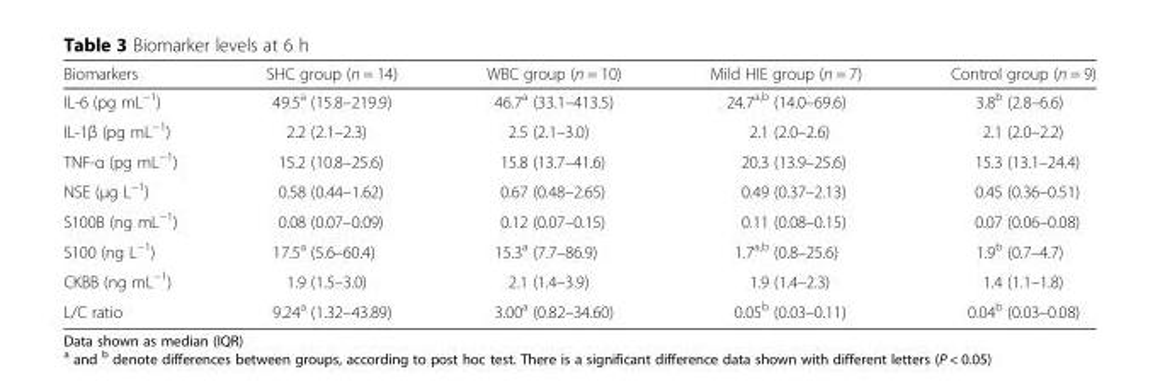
<table><thead><tr><td>Biomarkers</td><td>SHC group (n = 14)</td><td>WBC group (n = 10)</td><td>Mild HIE group (n = 7)</td><td>Control group (n = 9)</td></tr></thead><tbody><tr><td>IL-6 (pg mL<sup>−1</sup>)</td><td>49.5<sup>a</sup> (15.8–219.9)</td><td>46.7<sup>a</sup> (33.1–413.5)</td><td>24.7<sup>a,b</sup> (14.0–69.6)</td><td>3.8<sup>b</sup> (2.8–6.6)</td></tr><tr><td>IL-1β (pg mL<sup>−1</sup>)</td><td>2.2 (2.1–2.3)</td><td>2.5 (2.1–3.0)</td><td>2.1 (2.0–2.6)</td><td>2.1 (2.0–2.2)</td></tr><tr><td>TNF-α (pg mL<sup>−1</sup>)</td><td>15.2 (10.8–25.6)</td><td>15.8 (13.7–41.6)</td><td>20.3 (13.9–25.6)</td><td>15.3 (13.1–24.4)</td></tr><tr><td>NSE (μg L<sup>−1</sup>)</td><td>0.58 (0.44–1.62)</td><td>0.67 (0.48–2.65)</td><td>0.49 (0.37–2.13)</td><td>0.45 (0.36–0.51)</td></tr><tr><td>S100B (ng mL<sup>−1</sup>)</td><td>0.08 (0.07–0.09)</td><td>0.12 (0.07–0.15)</td><td>0.11 (0.08–0.15)</td><td>0.07 (0.06–0.08)</td></tr><tr><td>S100 (ng L<sup>−1</sup>)</td><td>17.5<sup>a</sup> (5.6–60.4)</td><td>15.3<sup>a</sup> (7.7–86.9)</td><td>1.7<sup>a,b</sup> (0.8–25.6)</td><td>1.9<sup>b</sup> (0.7–4.7)</td></tr><tr><td>CKBB (ng mL<sup>−1</sup>)</td><td>1.9 (1.5–3.0)</td><td>2.1 (1.4–3.9)</td><td>1.9 (1.4–2.3)</td><td>1.4 (1.1–1.8)</td></tr><tr><td>L/C ratio</td><td>9.24<sup>a</sup> (1.32–43.89)</td><td>3.00<sup>a</sup> (0.82–34.60)</td><td>0.05<sup>b</sup> (0.03–0.11)</td><td>0.04<sup>b</sup> (0.03–0.08)</td></tr></tbody></table>